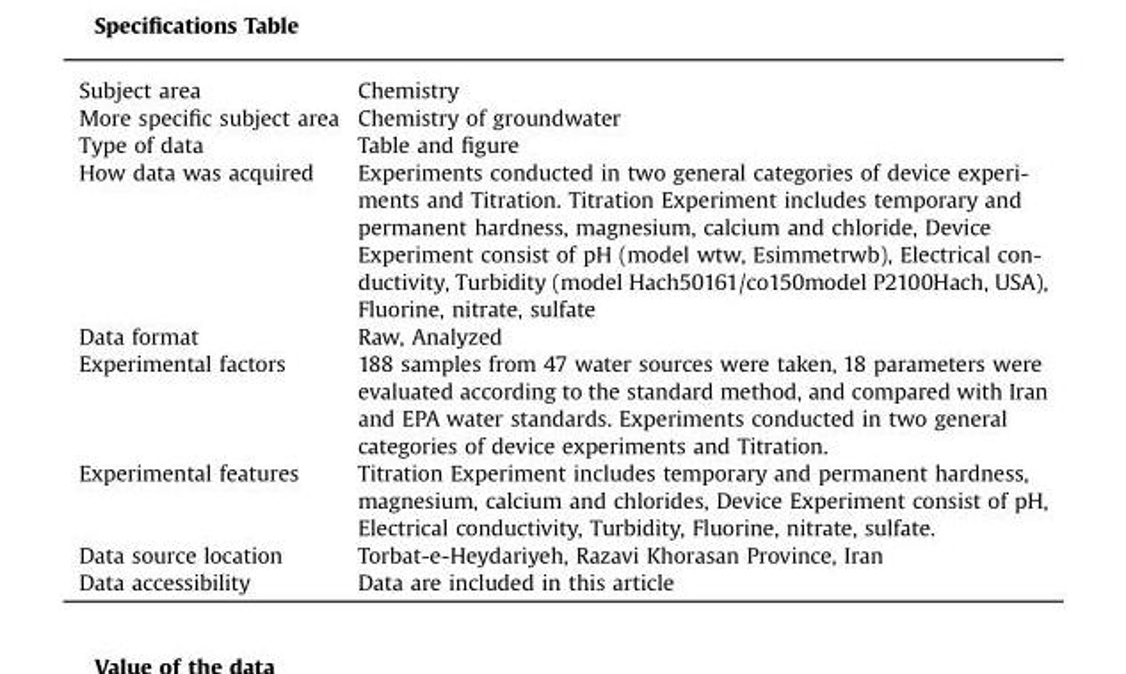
<table><thead><tr><td>Subject area</td><td>Chemistry</td></tr></thead><tbody><tr><td>More specific subject area</td><td>Chemistry of groundwater</td></tr><tr><td>Type of data</td><td>Table and figure</td></tr><tr><td>How data was acquired</td><td>Experiments conducted in two general categories of device experi- ments and Titration. Titration Experiment includes temporary and permanent hardness, magnesium, calcium and chloride, Device Experiment consist of pH (model wtw, Esimmetrwb), Electrical con- ductivity, Turbidity (model Hach50161/co150model P2100Hach, USA), Fluorine, nitrate, sulfate</td></tr><tr><td>Data format</td><td>Raw, Analyzed</td></tr><tr><td>Experimental factors</td><td>188 samples from 47 water sources were taken, 18 parameters were evaluated according to the standard method, and compared with Iran and EPA water standards. Experiments conducted in two general categories of device experiments and Titration.</td></tr><tr><td>Experimental features</td><td>Titration Experiment includes temporary and permanent hardness, magnesium, calcium and chlorides, Device Experiment consist of pH, Electrical conductivity, Turbidity, Fluorine, nitrate, sulfate.</td></tr><tr><td>Data source location</td><td>Torbat-e-Heydariyeh, Razavi Khorasan Province, Iran</td></tr><tr><td>Data accessibility</td><td>Data are included in this article</td></tr></tbody></table>